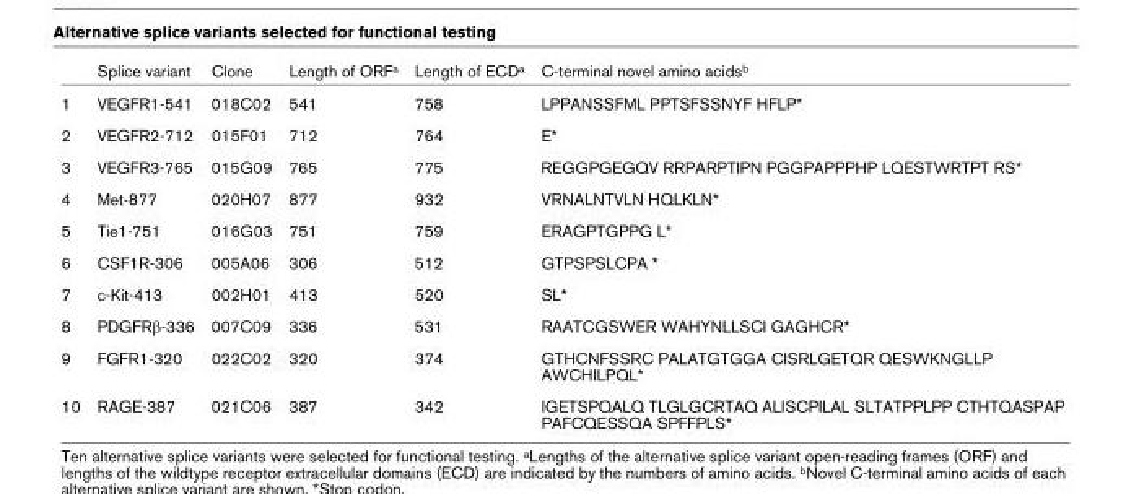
<table><thead><tr><td></td><td>Splice variant</td><td>Clone</td><td>Length of ORF<sup>a</sup></td><td>Length of ECD<sup>a</sup></td><td>C-terminal novel amino acids<sup>b</sup></td></tr></thead><tbody><tr><td>1</td><td>VEGFR1-541</td><td>018C02</td><td>541</td><td>758</td><td>LPPANSSFML PPTSFSSNYF HFLP*</td></tr><tr><td>2</td><td>VEGFR2-712</td><td>015F01</td><td>712</td><td>764</td><td>E*</td></tr><tr><td>3</td><td>VEGFR3-765</td><td>015G09</td><td>765</td><td>775</td><td>REGGPGEGQV RRPARPTIPN PGGPAPPPHP LQESTWRTPT RS*</td></tr><tr><td>4</td><td>Met-877</td><td>020H07</td><td>877</td><td>932</td><td>VRNALNTVLN HQLKLN*</td></tr><tr><td>5</td><td>Tie1-751</td><td>016G03</td><td>751</td><td>759</td><td>ERAGPTGPPG L*</td></tr><tr><td>6</td><td>CSF1R-306</td><td>005A06</td><td>306</td><td>512</td><td>GTPSPSLCPA *</td></tr><tr><td>7</td><td>c-Kit-413</td><td>002H01</td><td>413</td><td>520</td><td>SL*</td></tr><tr><td>8</td><td>PDGFRβ-336</td><td>007C09</td><td>336</td><td>531</td><td>RAATCGSWER WAHYNLLSCI GAGHCR*</td></tr><tr><td>9</td><td>FGFR1-320</td><td>022C02</td><td>320</td><td>374</td><td>GTHCNFSSRC PALATGTGGA CISRLGETQR QESWKNGLLP AWCHILPQL*</td></tr><tr><td>10</td><td>RAGE-387</td><td>021C06</td><td>387</td><td>342</td><td>IGETSPQALQ TLGLGCRTAQ ALISCPILAL SLTATPPLPP CTHTQASPAP PAFCQESSQA SPFFPLS*</td></tr></tbody></table>